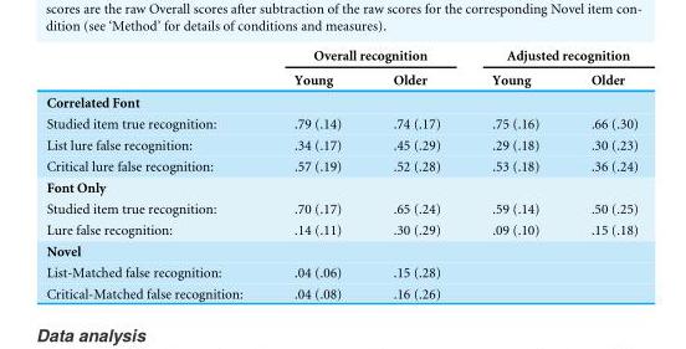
<table><thead><tr><td rowspan="2"></td><td colspan="2">Overall recognition</td><td colspan="2">Adjusted recognition</td></tr><tr><td>Young</td><td>Older</td><td>Young</td><td>Older</td></tr></thead><tbody><tr><td colspan="5">Correlated Font</td></tr><tr><td>Studied item true recognition:</td><td>.79 (.14)</td><td>.74 (.17)</td><td>.75 (.16)</td><td>.66 (.30)</td></tr><tr><td>List lure false recognition:</td><td>.34 (.17)</td><td>.45 (.29)</td><td>.29 (.18)</td><td>.30 (.23)</td></tr><tr><td>Critical lure false recognition:</td><td>.57 (.19)</td><td>.52 (.28)</td><td>.53 (.18)</td><td>.36 (.24)</td></tr><tr><td colspan="5">Font Only</td></tr><tr><td>Studied item true recognition:</td><td>.70 (.17)</td><td>.65 (.24)</td><td>.59 (.14)</td><td>.50 (.25)</td></tr><tr><td>Lure false recognition:</td><td>.14 (.11)</td><td>.30 (.29)</td><td>.09 (.10)</td><td>.15 (.18)</td></tr><tr><td colspan="5">Novel</td></tr><tr><td>List-Matched false recognition:</td><td>.04 (.06)</td><td>.15 (.28)</td><td></td><td></td></tr><tr><td>Critical-Matched false recognition:</td><td>.04 (.08)</td><td>.16 (.26)</td><td></td><td></td></tr></tbody></table>